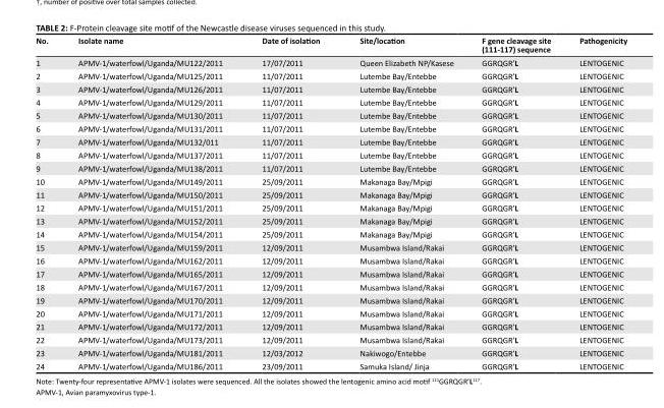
<table><thead><tr><td>No.</td><td>Isolate name</td><td>Date of isolation</td><td>Site/location</td><td>F gene cleavage site (111-117) sequence</td><td>Pathogenicity</td></tr></thead><tbody><tr><td>1</td><td>APMV-1/waterfowl/Uganda/MU122/2011</td><td>17/07/2011</td><td>Queen Elizabeth NP/Kasese</td><td>GGRQGR’L</td><td>LENTOGENIC</td></tr><tr><td>2</td><td>APMV-1/waterfowl/Uganda/MU125/2011</td><td>11/07/2011</td><td>Lutembe Bay/Entebbe</td><td>GGRQGR’L</td><td>LENTOGENIC</td></tr><tr><td>3</td><td>APMV-1/waterfowl/Uganda/MU126/2011</td><td>11/07/2011</td><td>Lutembe Bay/Entebbe</td><td>GGRQGR’L</td><td>LENTOGENIC</td></tr><tr><td>4</td><td>APMV-1/waterfowl/Uganda/MU129/2011</td><td>11/07/2011</td><td>Lutembe Bay/Entebbe</td><td>GGRQGR’L</td><td>LENTOGENIC</td></tr><tr><td>5</td><td>APMV-1/waterfowl/Uganda/MU130/2011</td><td>11/07/2011</td><td>Lutembe Bay/Entebbe</td><td>GGRQGR’L</td><td>LENTOGENIC</td></tr><tr><td>6</td><td>APMV-1/waterfowl/Uganda/MU131/2011</td><td>11/07/2011</td><td>Lutembe Bay/Entebbe</td><td>GGRQGR’L</td><td>LENTOGENIC</td></tr><tr><td>7</td><td>APMV-1/waterfowl/Uganda/MU132/011</td><td>11/07/2011</td><td>Lutembe Bay/Entebbe</td><td>GGRQGR’L</td><td>LENTOGENIC</td></tr><tr><td>8</td><td>APMV-1/waterfowl/Uganda/MU137/2011</td><td>11/07/2011</td><td>Lutembe Bay/Entebbe</td><td>GGRQGR’L</td><td>LENTOGENIC</td></tr><tr><td>9</td><td>APMV-1/waterfowl/Uganda/MU138/2011</td><td>11/07/2011</td><td>Lutembe Bay/Entebbe</td><td>GGRQGR’L</td><td>LENTOGENIC</td></tr><tr><td>10</td><td>APMV-1/waterfowl/Uganda/MU149/2011</td><td>25/09/2011</td><td>Makanaga Bay/Mpigi</td><td>GGRQGR’L</td><td>LENTOGENIC</td></tr><tr><td>11</td><td>APMV-1/waterfowl/Uganda/MU150/2011</td><td>25/09/2011</td><td>Makanaga Bay/Mpigi</td><td>GGRQGR’L</td><td>LENTOGENIC</td></tr><tr><td>12</td><td>APMV-1/waterfowl/Uganda/MU151/2011</td><td>25/09/2011</td><td>Makanaga Bay/Mpigi</td><td>GGRQGR’L</td><td>LENTOGENIC</td></tr><tr><td>13</td><td>APMV-1/waterfowl/Uganda/MU152/2011</td><td>25/09/2011</td><td>Makanaga Bay/Mpigi</td><td>GGRQGR’L</td><td>LENTOGENIC</td></tr><tr><td>14</td><td>APMV-1/waterfowl/Uganda/MU154/2011</td><td>25/09/2011</td><td>Makanaga Bay/Mpigi</td><td>GGRQGR’L</td><td>LENTOGENIC</td></tr><tr><td>15</td><td>APMV-1/waterfowl/Uganda/MU159/2011</td><td>12/09/2011</td><td>Musambwa Island/Rakai</td><td>GGRQGR’L</td><td>LENTOGENIC</td></tr><tr><td>16</td><td>APMV-1/waterfowl/Uganda/MU162/2011</td><td>12/09/2011</td><td>Musambwa Island/Rakai</td><td>GGRQGR’L</td><td>LENTOGENIC</td></tr><tr><td>17</td><td>APMV-1/waterfowl/Uganda/MU165/2011</td><td>12/09/2011</td><td>Musambwa Island/Rakai</td><td>GGRQGR’L</td><td>LENTOGENIC</td></tr><tr><td>18</td><td>APMV-1/waterfowl/Uganda/MU167/2011</td><td>12/09/2011</td><td>Musambwa Island/Rakai</td><td>GGRQGR’L</td><td>LENTOGENIC</td></tr><tr><td>19</td><td>APMV-1/waterfowl/Uganda/MU170/2011</td><td>12/09/2011</td><td>Musambwa Island/Rakai</td><td>GGRQGR’L</td><td>LENTOGENIC</td></tr><tr><td>20</td><td>APMV-1/waterfowl/Uganda/MU171/2011</td><td>12/09/2011</td><td>Musambwa Island/Rakai</td><td>GGRQGR’L</td><td>LENTOGENIC</td></tr><tr><td>21</td><td>APMV-1/waterfowl/Uganda/MU172/2011</td><td>12/09/2011</td><td>Musambwa Island/Rakai</td><td>GGRQGR’L</td><td>LENTOGENIC</td></tr><tr><td>22</td><td>APMV-1/waterfowl/Uganda/MU173/2011</td><td>12/09/2011</td><td>Musambwa Island/Rakai</td><td>GGRQGR’L</td><td>LENTOGENIC</td></tr><tr><td>23</td><td>APMV-1/waterfowl/Uganda/MU181/2011</td><td>12/03/2012</td><td>Nakiwogo/Entebbe</td><td>GGRQGR’L</td><td>LENTOGENIC</td></tr><tr><td>24</td><td>APMV-1/waterfowl/Uganda/MU186/2011</td><td>23/09/2011</td><td>Samuka Island/ Jinja</td><td>GGRQGR’L</td><td>LENTOGENIC</td></tr></tbody></table>